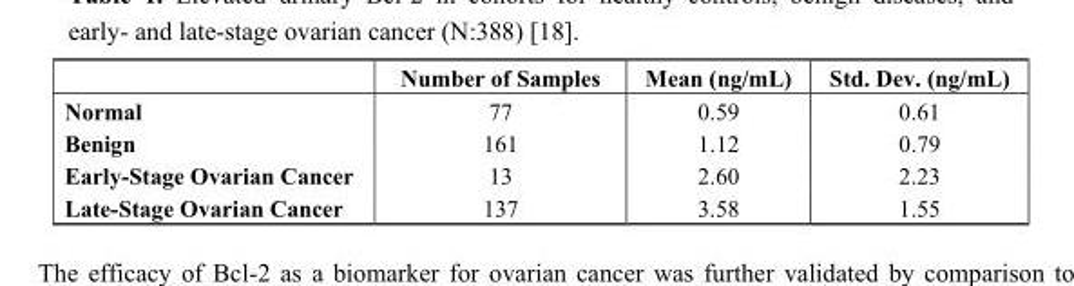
<table><thead><tr><td></td><td>Number of Samples</td><td>Mean (ng/mL)</td><td>Std. Dev. (ng/mL)</td></tr></thead><tbody><tr><td>Normal</td><td>77</td><td>0.59</td><td>0.61</td></tr><tr><td>Benign</td><td>161</td><td>1.12</td><td>0.79</td></tr><tr><td>Early-Stage Ovarian Cancer</td><td>13</td><td>2.60</td><td>2.23</td></tr><tr><td>Late-Stage Ovarian Cancer</td><td>137</td><td>3.58</td><td>1.55</td></tr></tbody></table>